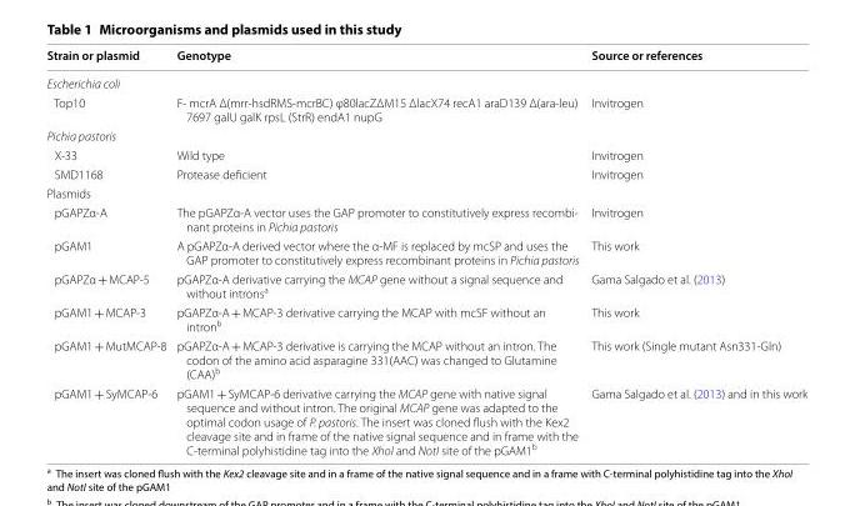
<table><thead><tr><td>Strain or plasmid</td><td>Genotype</td><td>Source or references</td></tr></thead><tbody><tr><td colspan="3">Escherichia coli</td></tr><tr><td>Top10</td><td>F‑ mcrA Δ(mrr‑hsdRMS‑mcrBC) φ80lacZΔM15 ΔlacX74 recA1 araD139 Δ(ara‑leu) 7697 galU galK rpsL (StrR) endA1 nupG</td><td>Invitrogen</td></tr><tr><td colspan="3">Pichia pastoris</td></tr><tr><td>X‑33</td><td>Wild type</td><td>Invitrogen</td></tr><tr><td>SMD1168</td><td>Protease deficient</td><td>Invitrogen</td></tr><tr><td colspan="3">Plasmids</td></tr><tr><td>pGAPZα‑A</td><td>The pGAPZα‑A vector uses the GAP promoter to constitutively express recombi‑ nant proteins in Pichia pastoris</td><td>Invitrogen</td></tr><tr><td>pGAM1</td><td>A pGAPZα‑A derived vector where the α‑MF is replaced by mcSP and uses the GAP promoter to constitutively express recombinant proteins in Pichia pastoris</td><td>This work</td></tr><tr><td>pGAPZα + MCAP‑5</td><td>pGAPZα‑A derivative carrying the MCAP gene without a signal sequence and without introns<sup>a</sup></td><td>Gama Salgado et al. (2013)</td></tr><tr><td>pGAM1 + MCAP‑3</td><td>pGAPZα‑A + MCAP‑3 derivative carrying the MCAP with mcSF without an intron<sup>b</sup></td><td>This work</td></tr><tr><td>pGAM1 + MutMCAP‑8</td><td>pGAPZα‑A + MCAP‑3 derivative is carrying the MCAP without an intron. The codon of the amino acid asparagine 331(AAC) was changed to Glutamine (CAA)<sup>b</sup></td><td>This work (Single mutant Asn331‑Gln)</td></tr><tr><td>pGAM1 + SyMCAP‑6</td><td>pGAM1 + SyMCAP‑6 derivative carrying the MCAP gene with native signal sequence and without intron. The original MCAP gene was adapted to the optimal codon usage of P. pastoris. The insert was cloned flush with the Kex2 cleavage site and in frame of the native signal sequence and in frame with the C‑terminal polyhistidine tag into the XhoI and NotI site of the pGAM1<sup>b</sup></td><td>Gama Salgado et al. (2013) and in this work</td></tr></tbody></table>